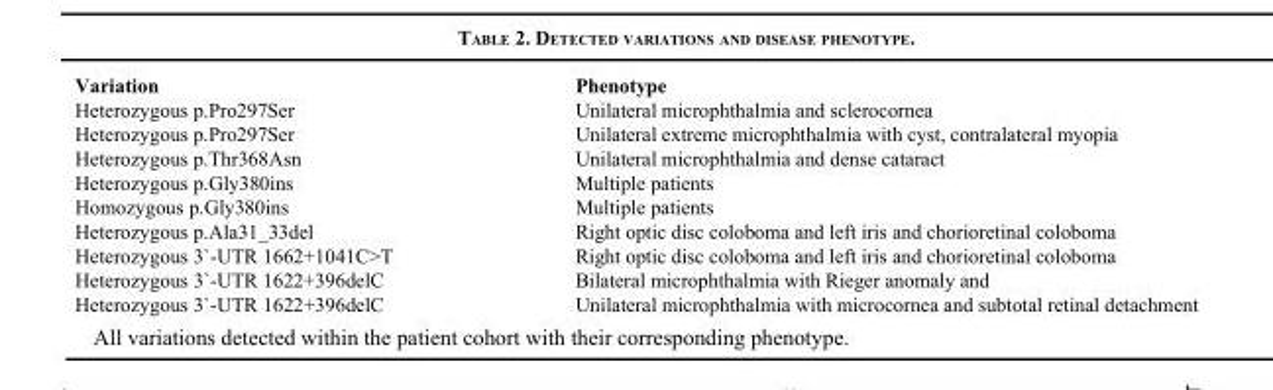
<table><thead><tr><td>Variation</td><td>Phenotype</td></tr></thead><tbody><tr><td>Heterozygous p.Pro297Ser</td><td>Unilateral microphthalmia and sclerocornea</td></tr><tr><td>Heterozygous p.Pro297Ser</td><td>Unilateral extreme microphthalmia with cyst, contralateral myopia</td></tr><tr><td>Heterozygous p.Thr368Asn</td><td>Unilateral microphthalmia and dense cataract</td></tr><tr><td>Heterozygous p.Gly380ins</td><td>Multiple patients</td></tr><tr><td>Homozygous p.Gly380ins</td><td>Multiple patients</td></tr><tr><td>Heterozygous p.Ala31_33del</td><td>Right optic disc coloboma and left iris and chorioretinal coloboma</td></tr><tr><td>Heterozygous 3`-UTR 1662+1041C&gt;T</td><td>Right optic disc coloboma and left iris and chorioretinal coloboma</td></tr><tr><td>Heterozygous 3`-UTR 1622+396delC</td><td>Bilateral microphthalmia with Rieger anomaly and</td></tr><tr><td>Heterozygous 3`-UTR 1622+396delC</td><td>Unilateral microphthalmia with microcornea and subtotal retinal detachment</td></tr></tbody></table>